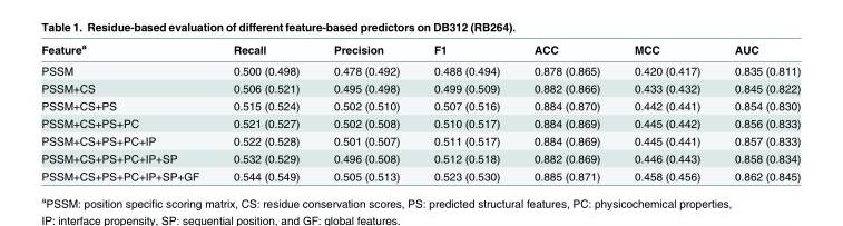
<table><thead><tr><td>Feature<sup>a</sup></td><td>Recall</td><td>Precision</td><td>F1</td><td>ACC</td><td>MCC</td><td>AUC</td></tr></thead><tbody><tr><td>PSSM</td><td>0.500 (0.498)</td><td>0.478 (0.492)</td><td>0.488 (0.494)</td><td>0.878 (0.865)</td><td>0.420 (0.417)</td><td>0.835 (0.811)</td></tr><tr><td>PSSM+CS</td><td>0.506 (0.521)</td><td>0.495 (0.498)</td><td>0.499 (0.509)</td><td>0.882 (0.866)</td><td>0.433 (0.432)</td><td>0.845 (0.822)</td></tr><tr><td>PSSM+CS+PS</td><td>0.515 (0.524)</td><td>0.502 (0.510)</td><td>0.507 (0.516)</td><td>0.884 (0.870)</td><td>0.442 (0.441)</td><td>0.854 (0.830)</td></tr><tr><td>PSSM+CS+PS+PC</td><td>0.521 (0.527)</td><td>0.502 (0.508)</td><td>0.510 (0.517)</td><td>0.884 (0.869)</td><td>0.445 (0.442)</td><td>0.856 (0.833)</td></tr><tr><td>PSSM+CS+PS+PC+IP</td><td>0.522 (0.528)</td><td>0.501 (0.507)</td><td>0.511 (0.517)</td><td>0.884 (0.869)</td><td>0.445 (0.441)</td><td>0.857 (0.833)</td></tr><tr><td>PSSM+CS+PS+PC+IP+SP</td><td>0.532 (0.529)</td><td>0.496 (0.508)</td><td>0.512 (0.518)</td><td>0.882 (0.869)</td><td>0.446 (0.443)</td><td>0.858 (0.834)</td></tr><tr><td>PSSM+CS+PS+PC+IP+SP+GF</td><td>0.544 (0.549)</td><td>0.505 (0.513)</td><td>0.523 (0.530)</td><td>0.885 (0.871)</td><td>0.458 (0.456)</td><td>0.862 (0.845)</td></tr></tbody></table>